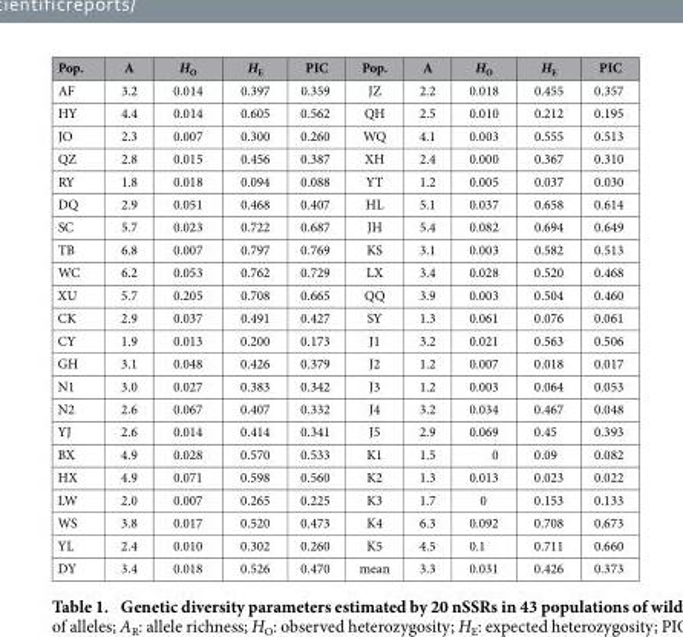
<table><thead><tr><td>Pop.</td><td>A</td><td>H<sub>O</sub></td><td>H<sub>E</sub></td><td>PIC</td><td>Pop.</td><td>A</td><td>H<sub>O</sub></td><td>H<sub>E</sub></td><td>PIC</td></tr></thead><tbody><tr><td>AF</td><td>3.2</td><td>0.014</td><td>0.397</td><td>0.359</td><td>JZ</td><td>2.2</td><td>0.018</td><td>0.455</td><td>0.357</td></tr><tr><td>HY</td><td>4.4</td><td>0.014</td><td>0.605</td><td>0.562</td><td>QH</td><td>2.5</td><td>0.010</td><td>0.212</td><td>0.195</td></tr><tr><td>JO</td><td>2.3</td><td>0.007</td><td>0.300</td><td>0.260</td><td>WQ</td><td>4.1</td><td>0.003</td><td>0.555</td><td>0.513</td></tr><tr><td>QZ</td><td>2.8</td><td>0.015</td><td>0.456</td><td>0.387</td><td>XH</td><td>2.4</td><td>0.000</td><td>0.367</td><td>0.310</td></tr><tr><td>RY</td><td>1.8</td><td>0.018</td><td>0.094</td><td>0.088</td><td>YT</td><td>1.2</td><td>0.005</td><td>0.037</td><td>0.030</td></tr><tr><td>DQ</td><td>2.9</td><td>0.051</td><td>0.468</td><td>0.407</td><td>HL</td><td>5.1</td><td>0.037</td><td>0.658</td><td>0.614</td></tr><tr><td>SC</td><td>5.7</td><td>0.023</td><td>0.722</td><td>0.687</td><td>JH</td><td>5.4</td><td>0.082</td><td>0.694</td><td>0.649</td></tr><tr><td>TB</td><td>6.8</td><td>0.007</td><td>0.797</td><td>0.769</td><td>KS</td><td>3.1</td><td>0.003</td><td>0.582</td><td>0.513</td></tr><tr><td>WC</td><td>6.2</td><td>0.053</td><td>0.762</td><td>0.729</td><td>LX</td><td>3.4</td><td>0.028</td><td>0.520</td><td>0.468</td></tr><tr><td>XU</td><td>5.7</td><td>0.205</td><td>0.708</td><td>0.665</td><td>QQ</td><td>3.9</td><td>0.003</td><td>0.504</td><td>0.460</td></tr><tr><td>CK</td><td>2.9</td><td>0.037</td><td>0.491</td><td>0.427</td><td>SY</td><td>1.3</td><td>0.061</td><td>0.076</td><td>0.061</td></tr><tr><td>CY</td><td>1.9</td><td>0.013</td><td>0.200</td><td>0.173</td><td>J1</td><td>3.2</td><td>0.021</td><td>0.563</td><td>0.506</td></tr><tr><td>GH</td><td>3.1</td><td>0.048</td><td>0.426</td><td>0.379</td><td>J2</td><td>1.2</td><td>0.007</td><td>0.018</td><td>0.017</td></tr><tr><td>N1</td><td>3.0</td><td>0.027</td><td>0.383</td><td>0.342</td><td>J3</td><td>1.2</td><td>0.003</td><td>0.064</td><td>0.053</td></tr><tr><td>N2</td><td>2.6</td><td>0.067</td><td>0.407</td><td>0.332</td><td>J4</td><td>3.2</td><td>0.034</td><td>0.467</td><td>0.048</td></tr><tr><td>YJ</td><td>2.6</td><td>0.014</td><td>0.414</td><td>0.341</td><td>J5</td><td>2.9</td><td>0.069</td><td>0.45</td><td>0.393</td></tr><tr><td>BX</td><td>4.9</td><td>0.028</td><td>0.570</td><td>0.533</td><td>K1</td><td>1.5</td><td>0</td><td>0.09</td><td>0.082</td></tr><tr><td>HX</td><td>4.9</td><td>0.071</td><td>0.598</td><td>0.560</td><td>K2</td><td>1.3</td><td>0.013</td><td>0.023</td><td>0.022</td></tr><tr><td>LW</td><td>2.0</td><td>0.007</td><td>0.265</td><td>0.225</td><td>K3</td><td>1.7</td><td>0</td><td>0.153</td><td>0.133</td></tr><tr><td>WS</td><td>3.8</td><td>0.017</td><td>0.520</td><td>0.473</td><td>K4</td><td>6.3</td><td>0.092</td><td>0.708</td><td>0.673</td></tr><tr><td>YL</td><td>2.4</td><td>0.010</td><td>0.302</td><td>0.260</td><td>K5</td><td>4.5</td><td>0.1</td><td>0.711</td><td>0.660</td></tr><tr><td>DY</td><td>3.4</td><td>0.018</td><td>0.526</td><td>0.470</td><td>mean</td><td>3.3</td><td>0.031</td><td>0.426</td><td>0.373</td></tr></tbody></table>